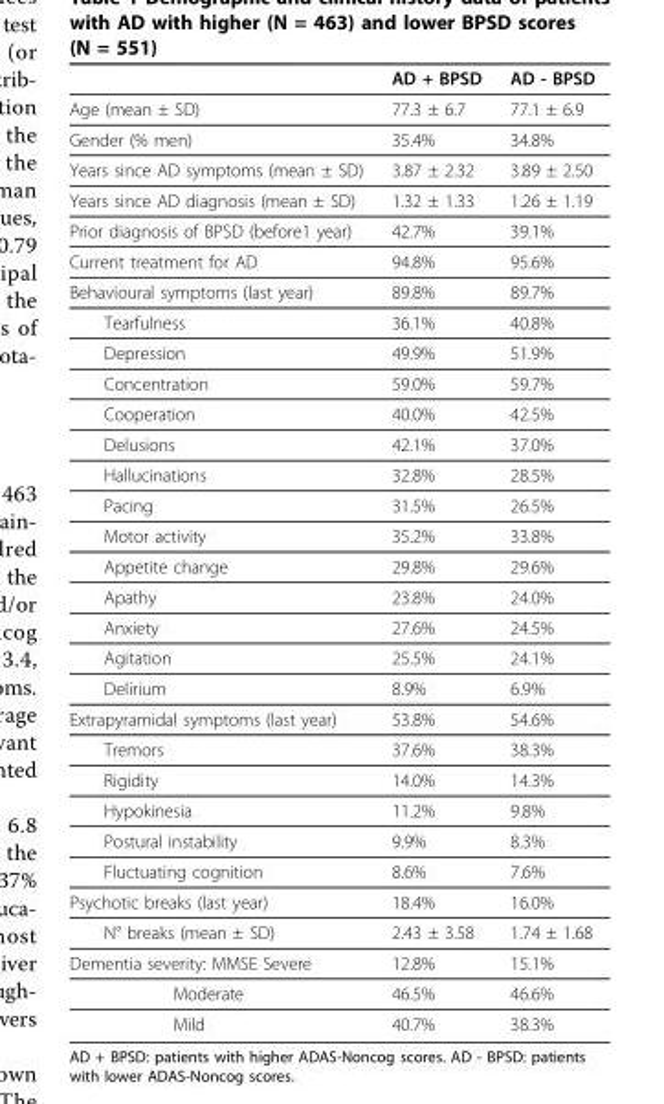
<table><thead><tr><td></td><td>AD + BPSD</td><td>AD - BPSD</td></tr></thead><tbody><tr><td>Age (mean ± SD)</td><td>77.3 ± 6.7</td><td>77.1 ± 6.9</td></tr><tr><td>Gender (% men)</td><td>35.4%</td><td>34.8%</td></tr><tr><td>Years since AD symptoms (mean ± SD)</td><td>3.87 ± 2.32</td><td>3.89 ± 2.50</td></tr><tr><td>Years since AD diagnosis (mean ± SD)</td><td>1.32 ± 1.33</td><td>1.26 ± 1.19</td></tr><tr><td>Prior diagnosis of BPSD (before1 year)</td><td>42.7%</td><td>39.1%</td></tr><tr><td>Current treatment for AD</td><td>94.8%</td><td>95.6%</td></tr><tr><td>Behavioural symptoms (last year)</td><td>89.8%</td><td>89.7%</td></tr><tr><td>Tearfulness</td><td>36.1%</td><td>40.8%</td></tr><tr><td>Depression</td><td>49.9%</td><td>51.9%</td></tr><tr><td>Concentration</td><td>59.0%</td><td>59.7%</td></tr><tr><td>Cooperation</td><td>40.0%</td><td>42.5%</td></tr><tr><td>Delusions</td><td>42.1%</td><td>37.0%</td></tr><tr><td>Hallucinations</td><td>32.8%</td><td>28.5%</td></tr><tr><td>Pacing</td><td>31.5%</td><td>26.5%</td></tr><tr><td>Motor activity</td><td>35.2%</td><td>33.8%</td></tr><tr><td>Appetite change</td><td>29.8%</td><td>29.6%</td></tr><tr><td>Apathy</td><td>23.8%</td><td>24.0%</td></tr><tr><td>Anxiety</td><td>27.6%</td><td>24.5%</td></tr><tr><td>Agitation</td><td>25.5%</td><td>24.1%</td></tr><tr><td>Delirium</td><td>8.9%</td><td>6.9%</td></tr><tr><td>Extrapyramidal symptoms (last year)</td><td>53.8%</td><td>54.6%</td></tr><tr><td>Tremors</td><td>37.6%</td><td>38.3%</td></tr><tr><td>Rigidity</td><td>14.0%</td><td>14.3%</td></tr><tr><td>Hypokinesia</td><td>11.2%</td><td>9.8%</td></tr><tr><td>Postural instability</td><td>9.9%</td><td>8.3%</td></tr><tr><td>Fluctuating cognition</td><td>8.6%</td><td>7.6%</td></tr><tr><td>Psychotic breaks (last year)</td><td>18.4%</td><td>16.0%</td></tr><tr><td>N° breaks (mean ± SD)</td><td>2.43 ± 3.58</td><td>1.74 ± 1.68</td></tr><tr><td>Dementia severity: MMSE Severe</td><td>12.8%</td><td>15.1%</td></tr><tr><td>Moderate</td><td>46.5%</td><td>46.6%</td></tr><tr><td>Mild</td><td>40.7%</td><td>38.3%</td></tr></tbody></table>